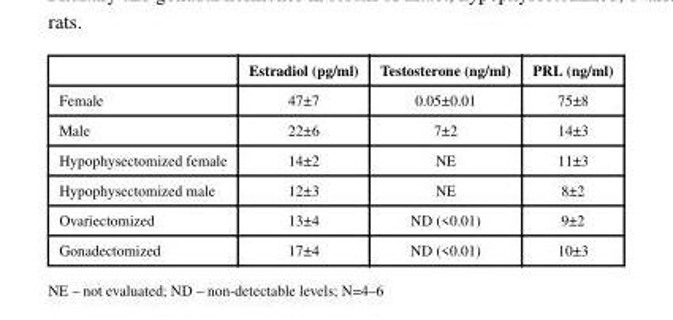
<table><thead><tr><td></td><td>Estradiol (pg/ml)</td><td>Testosterone (ng/ml)</td><td>PRL (ng/ml)</td></tr></thead><tbody><tr><td>Female</td><td>47±7</td><td>0.05±0.01</td><td>75±8</td></tr><tr><td>Male</td><td>22±6</td><td>7±2</td><td>14±3</td></tr><tr><td>Hypophysectomized female</td><td>14±2</td><td>NE</td><td>11±3</td></tr><tr><td>Hypophysectomized male</td><td>12±3</td><td>NE</td><td>8±2</td></tr><tr><td>Ovariectomized</td><td>13±4</td><td>ND (&lt;0.01)</td><td>9±2</td></tr><tr><td>Gonadectomized</td><td>17±4</td><td>ND (&lt;0.01)</td><td>10±3</td></tr></tbody></table>